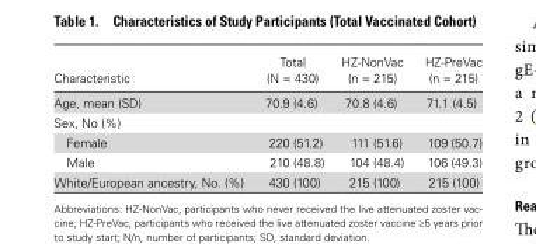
<table><thead><tr><td>Characteristic</td><td>Total (N = 430)</td><td>HZ-NonVac (n = 215)</td><td>HZ-PreVac (n = 215)</td></tr></thead><tbody><tr><td>Age, mean (SD)</td><td>70.9 (4.6)</td><td>70.8 (4.6)</td><td>71.1 (4.5)</td></tr><tr><td colspan="4">Sex, No (%)</td></tr><tr><td>Female</td><td>220 (51.2)</td><td>111 (51.6)</td><td>109 (50.7)</td></tr><tr><td>Male</td><td>210 (48.8)</td><td>104 (48.4)</td><td>106 (49.3)</td></tr><tr><td>White/European ancestry, No. (%)</td><td>430 (100)</td><td>215 (100)</td><td>215 (100)</td></tr></tbody></table>